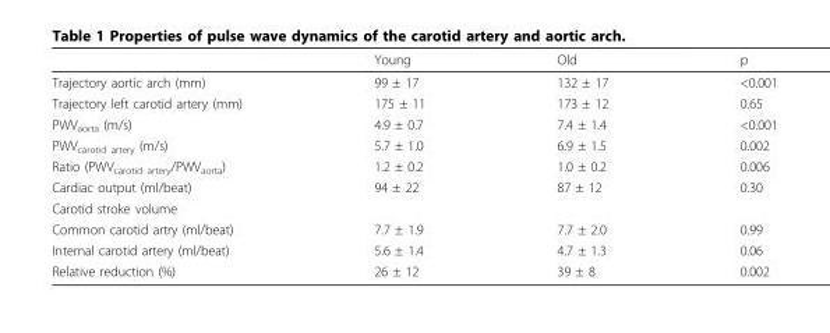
<table><thead><tr><td></td><td>Young</td><td>Old</td><td>p</td></tr></thead><tbody><tr><td>Trajectory aortic arch (mm)</td><td>99 ± 17</td><td>132 ± 17</td><td>&lt;0.001</td></tr><tr><td>Trajectory left carotid artery (mm)</td><td>175 ± 11</td><td>173 ± 12</td><td>0.65</td></tr><tr><td>PWV<sub>aorta</sub> (m/s)</td><td>4.9 ± 0.7</td><td>7.4 ± 1.4</td><td>&lt;0.001</td></tr><tr><td>PWV<sub>carotid artery</sub> (m/s)</td><td>5.7 ± 1.0</td><td>6.9 ± 1.5</td><td>0.002</td></tr><tr><td>Ratio (PWV<sub>carotid artery</sub>/PWV<sub>aorta</sub>)</td><td>1.2 ± 0.2</td><td>1.0 ± 0.2</td><td>0.006</td></tr><tr><td>Cardiac output (ml/beat)</td><td>94 ± 22</td><td>87 ± 12</td><td>0.30</td></tr><tr><td colspan="4">Carotid stroke volume</td></tr><tr><td>Common carotid artry (ml/beat)</td><td>7.7 ± 1.9</td><td>7.7 ± 2.0</td><td>0.99</td></tr><tr><td>Internal carotid artery (ml/beat)</td><td>5.6 ± 1.4</td><td>4.7 ± 1.3</td><td>0.06</td></tr><tr><td>Relative reduction (%)</td><td>26 ± 12</td><td>39 ± 8</td><td>0.002</td></tr></tbody></table>